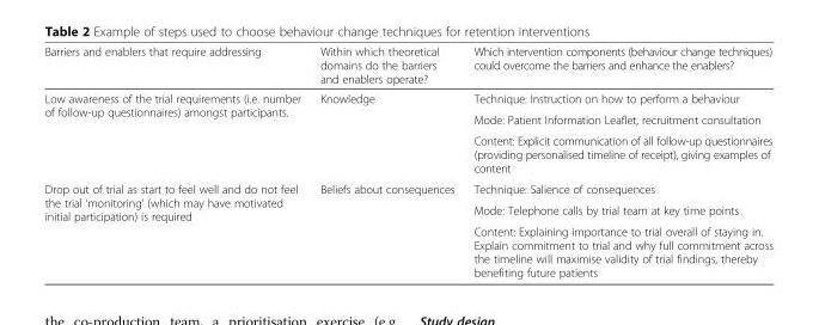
<table><thead><tr><td>Barriers and enablers that require addressing</td><td>Within which theoretical domains do the barriers and enablers operate?</td><td>Which intervention components (behaviour change techniques) could overcome the barriers and enhance the enablers?</td></tr></thead><tbody><tr><td rowspan="3">Low awareness of the trial requirements (i.e. number of follow-up questionnaires) amongst participants.</td><td rowspan="3">Knowledge</td><td>Technique: Instruction on how to perform a behaviour</td></tr><tr><td>Mode: Patient Information Leaflet, recruitment consultation</td></tr><tr><td>Content: Explicit communication of all follow-up questionnaires (providing personalised timeline of receipt), giving examples of content</td></tr><tr><td rowspan="3">Drop out of trial as start to feel well and do not feel the trial ‘monitoring’ (which may have motivated initial participation) is required</td><td rowspan="3">Beliefs about consequences</td><td>Technique: Salience of consequences</td></tr><tr><td>Mode: Telephone calls by trial team at key time points</td></tr><tr><td>Content: Explaining importance to trial overall of staying in. Explain commitment to trial and why full commitment across the timeline will maximise validity of trial findings, thereby benefiting future patients</td></tr></tbody></table>